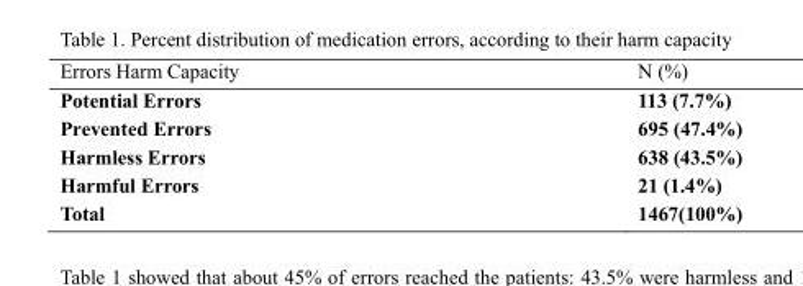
<table><thead><tr><td>Errors Harm Capacity</td><td>N (%)</td></tr></thead><tbody><tr><td>Potential Errors</td><td>113 (7.7%)</td></tr><tr><td>Prevented Errors</td><td>695 (47.4%)</td></tr><tr><td>Harmless Errors</td><td>638 (43.5%)</td></tr><tr><td>Harmful Errors</td><td>21 (1.4%)</td></tr><tr><td>Total</td><td>1467(100%)</td></tr></tbody></table>